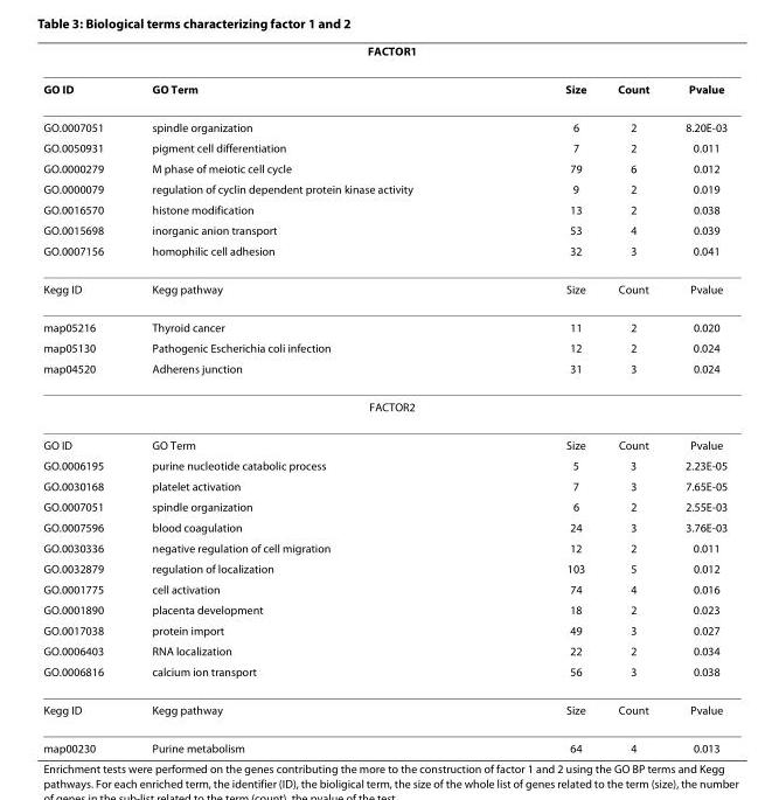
<table><thead><tr><td colspan="5">FACTOR1</td></tr><tr><td>GO ID</td><td>GO Term</td><td>Size</td><td>Count</td><td>Pvalue</td></tr></thead><tbody><tr><td>GO.0007051</td><td>spindle organization</td><td>6</td><td>2</td><td>8.20E-03</td></tr><tr><td>GO.0050931</td><td>pigment cell differentiation</td><td>7</td><td>2</td><td>0.011</td></tr><tr><td>GO.0000279</td><td>M phase of meiotic cell cycle</td><td>79</td><td>6</td><td>0.012</td></tr><tr><td>GO.0000079</td><td>regulation of cyclin dependent protein kinase activity</td><td>9</td><td>2</td><td>0.019</td></tr><tr><td>GO.0016570</td><td>histone modification</td><td>13</td><td>2</td><td>0.038</td></tr><tr><td>GO.0015698</td><td>inorganic anion transport</td><td>53</td><td>4</td><td>0.039</td></tr><tr><td>GO.0007156</td><td>homophilic cell adhesion</td><td>32</td><td>3</td><td>0.041</td></tr><tr><td>Kegg ID</td><td>Kegg pathway</td><td>Size</td><td>Count</td><td>Pvalue</td></tr><tr><td>map05216</td><td>Thyroid cancer</td><td>11</td><td>2</td><td>0.020</td></tr><tr><td>map05130</td><td>Pathogenic Escherichia coli infection</td><td>12</td><td>2</td><td>0.024</td></tr><tr><td>map04520</td><td>Adherens junction</td><td>31</td><td>3</td><td>0.024</td></tr><tr><td colspan="5">FACTOR2</td></tr><tr><td>GO ID</td><td>GO Term</td><td>Size</td><td>Count</td><td>Pvalue</td></tr><tr><td>GO.0006195</td><td>purine nucleotide catabolic process</td><td>5</td><td>3</td><td>2.23E-05</td></tr><tr><td>GO.0030168</td><td>platelet activation</td><td>7</td><td>3</td><td>7.65E-05</td></tr><tr><td>GO.0007051</td><td>spindle organization</td><td>6</td><td>2</td><td>2.55E-03</td></tr><tr><td>GO.0007596</td><td>blood coagulation</td><td>24</td><td>3</td><td>3.76E-03</td></tr><tr><td>GO.0030336</td><td>negative regulation of cell migration</td><td>12</td><td>2</td><td>0.011</td></tr><tr><td>GO.0032879</td><td>regulation of localization</td><td>103</td><td>5</td><td>0.012</td></tr><tr><td>GO.0001775</td><td>cell activation</td><td>74</td><td>4</td><td>0.016</td></tr><tr><td>GO.0001890</td><td>placenta development</td><td>18</td><td>2</td><td>0.023</td></tr><tr><td>GO.0017038</td><td>protein import</td><td>49</td><td>3</td><td>0.027</td></tr><tr><td>GO.0006403</td><td>RNA localization</td><td>22</td><td>2</td><td>0.034</td></tr><tr><td>GO.0006816</td><td>calcium ion transport</td><td>56</td><td>3</td><td>0.038</td></tr><tr><td>Kegg ID</td><td>Kegg pathway</td><td>Size</td><td>Count</td><td>Pvalue</td></tr><tr><td>map00230</td><td>Purine metabolism</td><td>64</td><td>4</td><td>0.013</td></tr></tbody></table>